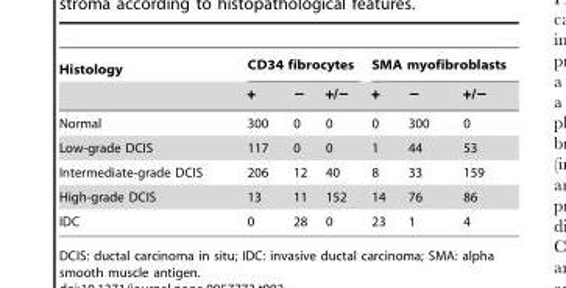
<table><thead><tr><td rowspan="2">Histology</td><td colspan="3">CD34 fibrocytes</td><td colspan="3">SMA myofibroblasts</td></tr><tr><td>+</td><td>−</td><td>+/−</td><td>+</td><td>−</td><td>+/−</td></tr></thead><tbody><tr><td>Normal</td><td>300</td><td>0</td><td>0</td><td>0</td><td>300</td><td>0</td></tr><tr><td>Low-grade DCIS</td><td>117</td><td>0</td><td>0</td><td>1</td><td>44</td><td>53</td></tr><tr><td>Intermediate-grade DCIS</td><td>206</td><td>12</td><td>40</td><td>8</td><td>33</td><td>159</td></tr><tr><td>High-grade DCIS</td><td>13</td><td>11</td><td>152</td><td>14</td><td>76</td><td>86</td></tr><tr><td>IDC</td><td>0</td><td>28</td><td>0</td><td>23</td><td>1</td><td>4</td></tr></tbody></table>